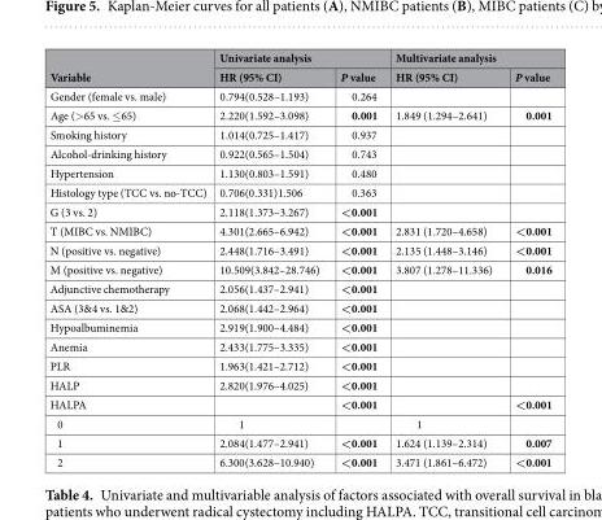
<table><thead><tr><td rowspan="2">Variable</td><td colspan="2">Univariate analysis</td><td colspan="2">Multivariate analysis</td></tr><tr><td>HR (95% CI)</td><td>P value</td><td>HR (95% CI)</td><td>P value</td></tr></thead><tbody><tr><td>Gender (female vs. male)</td><td>0.794(0.528–1.193)</td><td>0.264</td><td></td><td></td></tr><tr><td>Age (&gt;65 vs. ≤65)</td><td>2.220(1.592–3.098)</td><td>0.001</td><td>1.849 (1.294–2.641)</td><td>0.001</td></tr><tr><td>Smoking history</td><td>1.014(0.725–1.417)</td><td>0.937</td><td></td><td></td></tr><tr><td>Alcohol-drinking history</td><td>0.922(0.565–1.504)</td><td>0.743</td><td></td><td></td></tr><tr><td>Hypertension</td><td>1.130(0.803–1.591)</td><td>0.480</td><td></td><td></td></tr><tr><td>Histology type (TCC vs. no-TCC)</td><td>0.706(0.331)1.506</td><td>0.363</td><td></td><td></td></tr><tr><td>G (3 vs. 2)</td><td>2.118(1.373–3.267)</td><td>&lt;0.001</td><td></td><td></td></tr><tr><td>T (MIBC vs. NMIBC)</td><td>4.301(2.665–6.942)</td><td>&lt;0.001</td><td>2.831 (1.720–4.658)</td><td>&lt;0.001</td></tr><tr><td>N (positive vs. negative)</td><td>2.448(1.716–3.491)</td><td>&lt;0.001</td><td>2.135 (1.448–3.146)</td><td>&lt;0.001</td></tr><tr><td>M (positive vs. negative)</td><td>10.509(3.842–28.746)</td><td>&lt;0.001</td><td>3.807 (1.278–11.336)</td><td>0.016</td></tr><tr><td>Adjunctive chemotherapy</td><td>2.056(1.437–2.941)</td><td>&lt;0.001</td><td></td><td></td></tr><tr><td>ASA (3&amp;4 vs. 1&amp;2)</td><td>2.068(1.442–2.964)</td><td>&lt;0.001</td><td></td><td></td></tr><tr><td>Hypoalbuminemia</td><td>2.919(1.900–4.484)</td><td>&lt;0.001</td><td></td><td></td></tr><tr><td>Anemia</td><td>2.433(1.775–3.335)</td><td>&lt;0.001</td><td></td><td></td></tr><tr><td>PLR</td><td>1.963(1.421–2.712)</td><td>&lt;0.001</td><td></td><td></td></tr><tr><td>HALP</td><td>2.820(1.976–4.025)</td><td>&lt;0.001</td><td></td><td></td></tr><tr><td>HALPA</td><td></td><td>&lt;0.001</td><td></td><td>&lt;0.001</td></tr><tr><td>0</td><td>1</td><td></td><td>1</td><td></td></tr><tr><td>1</td><td>2.084(1.477–2.941)</td><td>&lt;0.001</td><td>1.624 (1.139–2.314)</td><td>0.007</td></tr><tr><td>2</td><td>6.300(3.628–10.940)</td><td>&lt;0.001</td><td>3.471 (1.861–6.472)</td><td>&lt;0.001</td></tr></tbody></table>